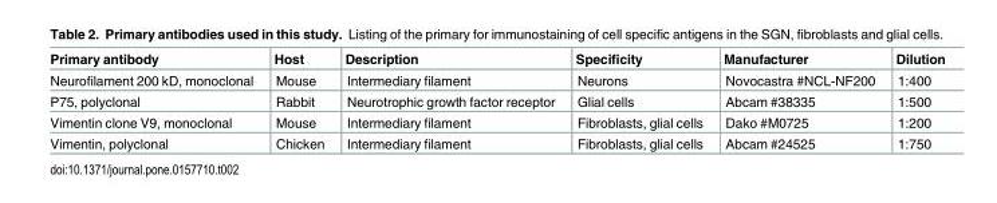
<table><thead><tr><td>Primary antibody</td><td>Host</td><td>Description</td><td>Specificity</td><td>Manufacturer</td><td>Dilution</td></tr></thead><tbody><tr><td>Neurofilament 200 kD, monoclonal</td><td>Mouse</td><td>Intermediary filament</td><td>Neurons</td><td>Novocastra #NCL-NF200</td><td>1:400</td></tr><tr><td>P75, polyclonal</td><td>Rabbit</td><td>Neurotrophic growth factor receptor</td><td>Glial cells</td><td>Abcam #38335</td><td>1:500</td></tr><tr><td>Vimentin clone V9, monoclonal</td><td>Mouse</td><td>Intermediary filament</td><td>Fibroblasts, glial cells</td><td>Dako #M0725</td><td>1:200</td></tr><tr><td>Vimentin, polyclonal</td><td>Chicken</td><td>Intermediary filament</td><td>Fibroblasts, glial cells</td><td>Abcam #24525</td><td>1:750</td></tr></tbody></table>